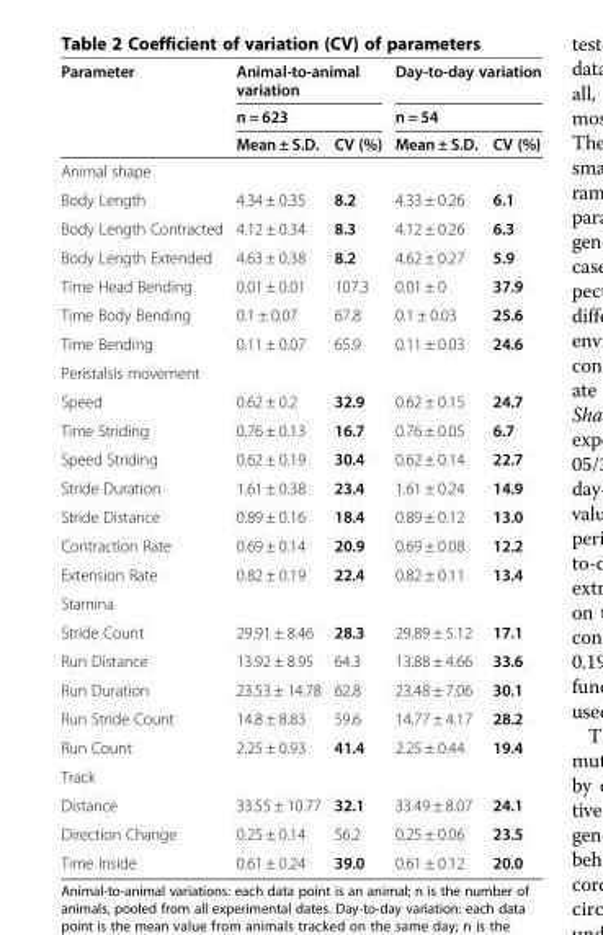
<table><thead><tr><td rowspan="3">Parameter</td><td rowspan="2" colspan="2">Animal-to-animal variation n = 623</td><td rowspan="2" colspan="2">Day-to-day variation n = 54</td></tr><tr></tr><tr><td>Mean ± S.D.</td><td>CV (%)</td><td>Mean ± S.D.</td><td>CV (%)</td></tr></thead><tbody><tr><td colspan="5">Animal shape</td></tr><tr><td>Body Length</td><td>4.34 ± 0.35</td><td>8.2</td><td>4.33 ± 0.26</td><td>6.1</td></tr><tr><td>Body Length Contracted</td><td>4.12 ± 0.34</td><td>8.3</td><td>4.12 ± 0.26</td><td>6.3</td></tr><tr><td>Body Length Extended</td><td>4.63 ± 0.38</td><td>8.2</td><td>4.62 ± 0.27</td><td>5.9</td></tr><tr><td>Time Head Bending</td><td>0.01 ± 0.01</td><td>107.3</td><td>0.01 ± 0</td><td>37.9</td></tr><tr><td>Time Body Bending</td><td>0.1 ± 0.07</td><td>67.8</td><td>0.1 ± 0.03</td><td>25.6</td></tr><tr><td>Time Bending</td><td>0.11 ± 0.07</td><td>65.9</td><td>0.11 ± 0.03</td><td>24.6</td></tr><tr><td colspan="5">Peristalsis movement</td></tr><tr><td>Speed</td><td>0.62 ± 0.2</td><td>32.9</td><td>0.62 ± 0.15</td><td>24.7</td></tr><tr><td>Time Striding</td><td>0.76 ± 0.13</td><td>16.7</td><td>0.76 ± 0.05</td><td>6.7</td></tr><tr><td>Speed Striding</td><td>0.62 ± 0.19</td><td>30.4</td><td>0.62 ± 0.14</td><td>22.7</td></tr><tr><td>Stride Duration</td><td>1.61 ± 0.38</td><td>23.4</td><td>1.61 ± 0.24</td><td>14.9</td></tr><tr><td>Stride Distance</td><td>0.89 ± 0.16</td><td>18.4</td><td>0.89 ± 0.12</td><td>13.0</td></tr><tr><td>Contraction Rate</td><td>0.69 ± 0.14</td><td>20.9</td><td>0.69 ± 0.08</td><td>12.2</td></tr><tr><td>Extension Rate</td><td>0.82 ± 0.19</td><td>22.4</td><td>0.82 ± 0.11</td><td>13.4</td></tr><tr><td colspan="5">Stamina</td></tr><tr><td>Stride Count</td><td>29.91 ± 8.46</td><td>28.3</td><td>29.89 ± 5.12</td><td>17.1</td></tr><tr><td>Run Distance</td><td>13.92 ± 8.95</td><td>64.3</td><td>13.88 ± 4.66</td><td>33.6</td></tr><tr><td>Run Duration</td><td>23.53 ± 14.78</td><td>62.8</td><td>23.48 ± 7.06</td><td>30.1</td></tr><tr><td>Run Stride Count</td><td>14.8 ± 8.83</td><td>59.6</td><td>14.77 ± 4.17</td><td>28.2</td></tr><tr><td>Run Count</td><td>2.25 ± 0.93</td><td>41.4</td><td>2.25 ± 0.44</td><td>19.4</td></tr><tr><td colspan="5">Track</td></tr><tr><td>Distance</td><td>33.55 ± 10.77</td><td>32.1</td><td>33.49 ± 8.07</td><td>24.1</td></tr><tr><td>Direction Change</td><td>0.25 ± 0.14</td><td>56.2</td><td>0.25 ± 0.06</td><td>23.5</td></tr><tr><td>Time Inside</td><td>0.61 ± 0.24</td><td>39.0</td><td>0.61 ± 0.12</td><td>20.0</td></tr></tbody></table>